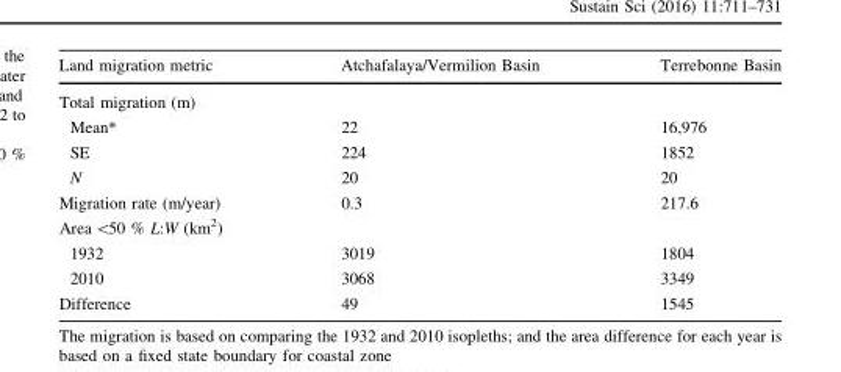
<table><thead><tr><td>Land migration metric</td><td>Atchafalaya/Vermilion Basin</td><td>Terrebonne Basin</td></tr></thead><tbody><tr><td colspan="3">Total migration (m)</td></tr><tr><td>Mean*</td><td>22</td><td>16,976</td></tr><tr><td>SE</td><td>224</td><td>1852</td></tr><tr><td>N</td><td>20</td><td>20</td></tr><tr><td>Migration rate (m/year)</td><td>0.3</td><td>217.6</td></tr><tr><td colspan="3">Area &lt;50 % L:W (km<sup>2</sup>)</td></tr><tr><td>1932</td><td>3019</td><td>1804</td></tr><tr><td>2010</td><td>3068</td><td>3349</td></tr><tr><td>Difference</td><td>49</td><td>1545</td></tr></tbody></table>